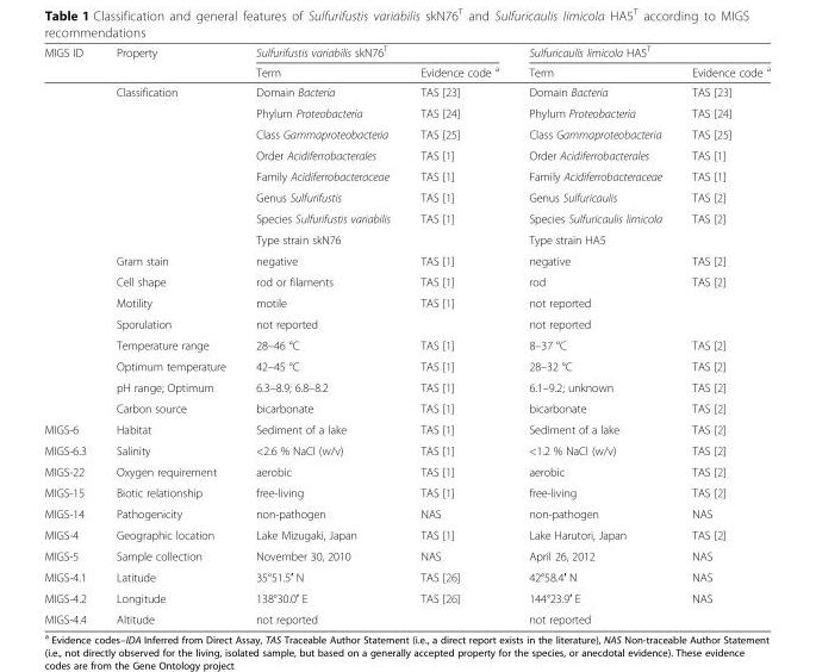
<table><thead><tr><td rowspan="2">MIGS ID</td><td rowspan="2">Property</td><td colspan="2">Sulfurifustis variabilis skN76<sup>T</sup></td><td colspan="2">Sulfuricaulis limicola HA5<sup>T</sup></td></tr><tr><td>Term</td><td>Evidence code <sup>a</sup></td><td>Term</td><td>Evidence code <sup>a</sup></td></tr></thead><tbody><tr><td></td><td rowspan="8">Classification</td><td>Domain Bacteria</td><td>TAS [23]</td><td>Domain Bacteria</td><td>TAS [23]</td></tr><tr><td></td><td>Phylum Proteobacteria</td><td>TAS [24]</td><td>Phylum Proteobacteria</td><td>TAS [24]</td></tr><tr><td></td><td>Class Gammaproteobacteria</td><td>TAS [25]</td><td>Class Gammaproteobacteria</td><td>TAS [25]</td></tr><tr><td></td><td>Order Acidiferrobacterales</td><td>TAS [1]</td><td>Order Acidiferrobacterales</td><td>TAS [1]</td></tr><tr><td></td><td>Family Acidiferrobacteraceae</td><td>TAS [1]</td><td>Family Acidiferrobacteraceae</td><td>TAS [1]</td></tr><tr><td></td><td>Genus Sulfurifustis</td><td>TAS [1]</td><td>Genus Sulfuricaulis</td><td>TAS [2]</td></tr><tr><td></td><td>Species Sulfurifustis variabilis</td><td>TAS [1]</td><td>Species Sulfuricaulis limicola</td><td>TAS [2]</td></tr><tr><td></td><td>Type strain skN76</td><td></td><td>Type strain HA5</td><td></td></tr><tr><td></td><td>Gram stain</td><td>negative</td><td>TAS [1]</td><td>negative</td><td>TAS [2]</td></tr><tr><td></td><td>Cell shape</td><td>rod or filaments</td><td>TAS [1]</td><td>rod</td><td>TAS [2]</td></tr><tr><td></td><td>Motility</td><td>motile</td><td>TAS [1]</td><td>not reported</td><td></td></tr><tr><td></td><td>Sporulation</td><td>not reported</td><td></td><td>not reported</td><td></td></tr><tr><td></td><td>Temperature range</td><td>28–46 °C</td><td>TAS [1]</td><td>8–37 °C</td><td>TAS [2]</td></tr><tr><td></td><td>Optimum temperature</td><td>42–45 °C</td><td>TAS [1]</td><td>28–32 °C</td><td>TAS [2]</td></tr><tr><td></td><td>pH range; Optimum</td><td>6.3–8.9; 6.8–8.2</td><td>TAS [1]</td><td>6.1–9.2; unknown</td><td>TAS [2]</td></tr><tr><td></td><td>Carbon source</td><td>bicarbonate</td><td>TAS [1]</td><td>bicarbonate</td><td>TAS [2]</td></tr><tr><td>MIGS-6</td><td>Habitat</td><td>Sediment of a lake</td><td>TAS [1]</td><td>Sediment of a lake</td><td>TAS [2]</td></tr><tr><td>MIGS-6.3</td><td>Salinity</td><td>&lt;2.6 % NaCl (w/v)</td><td>TAS [1]</td><td>&lt;1.2 % NaCl (w/v)</td><td>TAS [2]</td></tr><tr><td>MIGS-22</td><td>Oxygen requirement</td><td>aerobic</td><td>TAS [1]</td><td>aerobic</td><td>TAS [2]</td></tr><tr><td>MIGS-15</td><td>Biotic relationship</td><td>free-living</td><td>TAS [1]</td><td>free-living</td><td>TAS [2]</td></tr><tr><td>MIGS-14</td><td>Pathogenicity</td><td>non-pathogen</td><td>NAS</td><td>non-pathogen</td><td>NAS</td></tr><tr><td>MIGS-4</td><td>Geographic location</td><td>Lake Mizugaki, Japan</td><td>TAS [1]</td><td>Lake Harutori, Japan</td><td>TAS [2]</td></tr><tr><td>MIGS-5</td><td>Sample collection</td><td>November 30, 2010</td><td>NAS</td><td>April 26, 2012</td><td>NAS</td></tr><tr><td>MIGS-4.1</td><td>Latitude</td><td>35°51.5′ N</td><td>TAS [26]</td><td>42°58.4′ N</td><td>NAS</td></tr><tr><td>MIGS-4.2</td><td>Longitude</td><td>138°30.0′ E</td><td>TAS [26]</td><td>144°23.9′ E</td><td>NAS</td></tr><tr><td>MIGS-4.4</td><td>Altitude</td><td>not reported</td><td></td><td>not reported</td><td></td></tr></tbody></table>